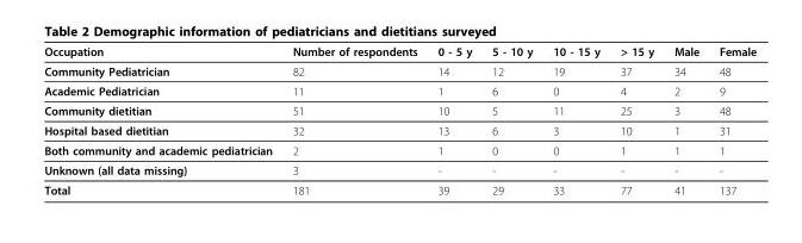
<table><thead><tr><td>Occupation</td><td>Number of respondents</td><td>0 - 5 y</td><td>5 - 10 y</td><td>10 - 15 y</td><td>&gt; 15 y</td><td>Male</td><td>Female</td></tr></thead><tbody><tr><td>Community Pediatrician</td><td>82</td><td>14</td><td>12</td><td>19</td><td>37</td><td>34</td><td>48</td></tr><tr><td>Academic Pediatrician</td><td>11</td><td>1</td><td>6</td><td>0</td><td>4</td><td>2</td><td>9</td></tr><tr><td>Community dietitian</td><td>51</td><td>10</td><td>5</td><td>11</td><td>25</td><td>3</td><td>48</td></tr><tr><td>Hospital based dietitian</td><td>32</td><td>13</td><td>6</td><td>3</td><td>10</td><td>1</td><td>31</td></tr><tr><td>Both community and academic pediatrician</td><td>2</td><td>1</td><td>0</td><td>0</td><td>1</td><td>1</td><td>1</td></tr><tr><td>Unknown (all data missing)</td><td>3</td><td>-</td><td>-</td><td>-</td><td>-</td><td>-</td><td>-</td></tr><tr><td>Total</td><td>181</td><td>39</td><td>29</td><td>33</td><td>77</td><td>41</td><td>137</td></tr></tbody></table>